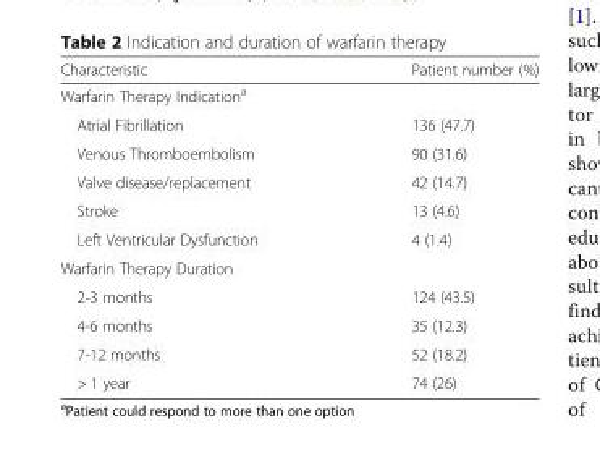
<table><thead><tr><td>Characteristic</td><td>Patient number (%)</td></tr></thead><tbody><tr><td colspan="2">Warfarin Therapy Indication<sup>a</sup></td></tr><tr><td>Atrial Fibrillation</td><td>136 (47.7)</td></tr><tr><td>Venous Thromboembolism</td><td>90 (31.6)</td></tr><tr><td>Valve disease/replacement</td><td>42 (14.7)</td></tr><tr><td>Stroke</td><td>13 (4.6)</td></tr><tr><td>Left Ventricular Dysfunction</td><td>4 (1.4)</td></tr><tr><td colspan="2">Warfarin Therapy Duration</td></tr><tr><td>2-3 months</td><td>124 (43.5)</td></tr><tr><td>4-6 months</td><td>35 (12.3)</td></tr><tr><td>7-12 months</td><td>52 (18.2)</td></tr><tr><td>&gt; 1 year</td><td>74 (26)</td></tr></tbody></table>